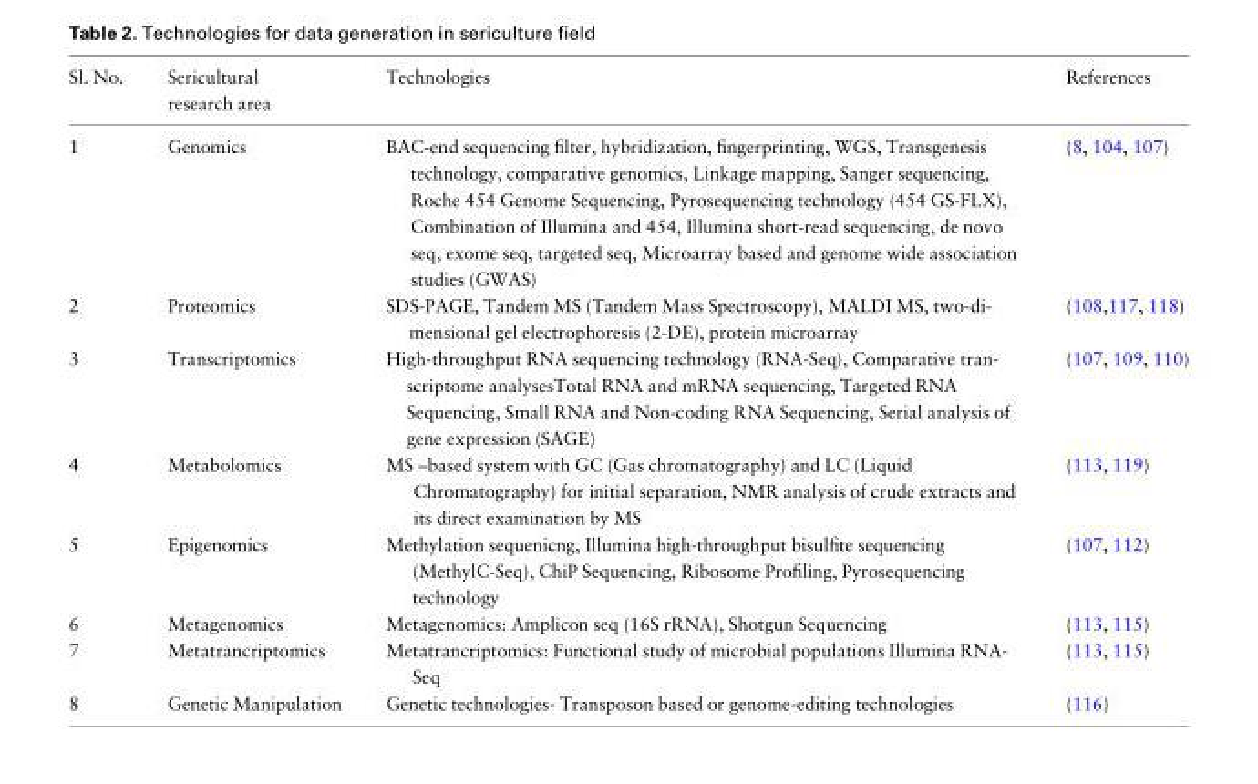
<table><thead><tr><td>Sl. No.</td><td>Sericultural research area</td><td>Technologies</td><td>References</td></tr></thead><tbody><tr><td>1</td><td>Genomics</td><td>BAC-end sequencing filter, hybridization, fingerprinting, WGS, Transgenesis technology, comparative genomics, Linkage mapping, Sanger sequencing, Roche 454 Genome Sequencing, Pyrosequencing technology (454 GS-FLX), Combination of Illumina and 454, Illumina short-read sequencing, de novo seq, exome seq, targeted seq, Microarray based and genome wide association studies (GWAS)</td><td>(8, 104, 107)</td></tr><tr><td>2</td><td>Proteomics</td><td>SDS-PAGE, Tandem MS (Tandem Mass Spectroscopy), MALDI MS, two-di- mensional gel electrophoresis (2-DE), protein microarray</td><td>(108,117, 118)</td></tr><tr><td>3</td><td>Transcriptomics</td><td>High-throughput RNA sequencing technology (RNA-Seq), Comparative tran- scriptome analysesTotal RNA and mRNA sequencing, Targeted RNA Sequencing, Small RNA and Non-coding RNA Sequencing, Serial analysis of gene expression (SAGE)</td><td>(107, 109, 110)</td></tr><tr><td>4</td><td>Metabolomics</td><td>MS –based system with GC (Gas chromatography) and LC (Liquid Chromatography) for initial separation, NMR analysis of crude extracts and its direct examination by MS</td><td>(113, 119)</td></tr><tr><td>5</td><td>Epigenomics</td><td>Methylation sequenicng, Illumina high-throughput bisulfite sequencing (MethylC-Seq), ChiP Sequencing, Ribosome Profiling, Pyrosequencing technology</td><td>(107, 112)</td></tr><tr><td>6</td><td>Metagenomics</td><td>Metagenomics: Amplicon seq (16S rRNA), Shotgun Sequencing</td><td>(113, 115)</td></tr><tr><td>7</td><td>Metatrancriptomics</td><td>Metatrancriptomics: Functional study of microbial populations Illumina RNA- Seq</td><td>(113, 115)</td></tr><tr><td>8</td><td>Genetic Manipulation</td><td>Genetic technologies- Transposon based or genome-editing technologies</td><td>(116)</td></tr></tbody></table>